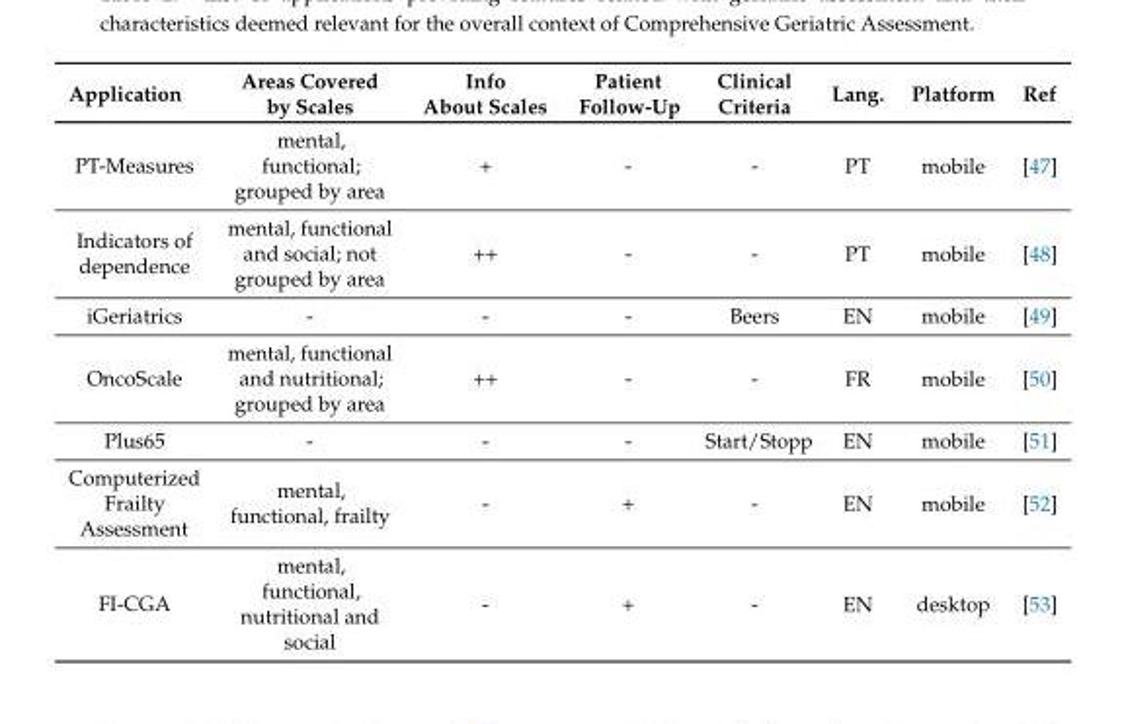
<table><thead><tr><td>Application</td><td>Areas Covered by Scales</td><td>Info About Scales</td><td>Patient Follow-Up</td><td>Clinical Criteria</td><td>Lang.</td><td>Platform</td><td>Ref</td></tr></thead><tbody><tr><td>PT-Measures</td><td>mental, functional; grouped by area</td><td>+</td><td>-</td><td>-</td><td>PT</td><td>mobile</td><td>[47]</td></tr><tr><td>Indicators of dependence</td><td>mental, functional and social; not grouped by area</td><td>++</td><td>-</td><td>-</td><td>PT</td><td>mobile</td><td>[48]</td></tr><tr><td>iGeriatrics</td><td>-</td><td>-</td><td>-</td><td>Beers</td><td>EN</td><td>mobile</td><td>[49]</td></tr><tr><td>OncoScale</td><td>mental, functional and nutritional; grouped by area</td><td>++</td><td>-</td><td>-</td><td>FR</td><td>mobile</td><td>[50]</td></tr><tr><td>Plus65</td><td>-</td><td>-</td><td>-</td><td>Start/Stopp</td><td>EN</td><td>mobile</td><td>[51]</td></tr><tr><td>Computerized Frailty Assessment</td><td>mental, functional, frailty</td><td>-</td><td>+</td><td>-</td><td>EN</td><td>mobile</td><td>[52]</td></tr><tr><td>FI-CGA</td><td>mental, functional, nutritional and social</td><td>-</td><td>+</td><td>-</td><td>EN</td><td>desktop</td><td>[53]</td></tr></tbody></table>